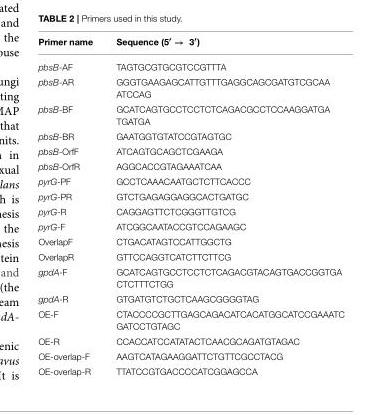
<table><thead><tr><td>Primer name</td><td>Sequence (5′ → 3′)</td></tr></thead><tbody><tr><td>pbsB-AF</td><td>TAGTGCGTGCGTCCGTTTA</td></tr><tr><td>pbsB-AR</td><td>GGGTGAAGAGCATTGTTTGAGGCAGCGATGTCGCAA ATCCAG</td></tr><tr><td>pbsB-BF</td><td>GCATCAGTGCCTCCTCTCAGACGCCTCCAAGGATGA TGATGA</td></tr><tr><td>pbsB-BR</td><td>GAATGGTGTATCCGTAGTGC</td></tr><tr><td>pbsB-OrfF</td><td>ATCAGTGCAGCTCGAAGA</td></tr><tr><td>pbsB-OrfR</td><td>AGGCACCGTAGAAATCAA</td></tr><tr><td>pyrG-PF</td><td>GCCTCAAACAATGCTCTTCACCC</td></tr><tr><td>pyrG-PR</td><td>GTCTGAGAGGAGGCACTGATGC</td></tr><tr><td>pyrG-R</td><td>CAGGAGTTCTCGGGTTGTCG</td></tr><tr><td>pyrG-F</td><td>ATCGGCAATACCGTCCAGAAGC</td></tr><tr><td>OverlapF</td><td>CTGACATAGTCCATTGGCTG</td></tr><tr><td>OverlapR</td><td>GTTCCAGGTCATCTTCTTCG</td></tr><tr><td>gpdA-F</td><td>GCATCAGTGCCTCCTCTCAGACGTACAGTGACCGGTGA CTCTTTCTGG</td></tr><tr><td>gpdA-R</td><td>GTGATGTCTGCTCAAGCGGGGTAG</td></tr><tr><td>OE-F</td><td>CTACCCCGCTTGAGCAGACATCACATGGCATCCGAAATC GATCCTGTAGC</td></tr><tr><td>OE-R</td><td>CCACCATCCATATACTCAACGCAGATGTAGAC</td></tr><tr><td>OE-overlap-F</td><td>AAGTCATAGAAGGATTCTGTTCGCCTACG</td></tr><tr><td>OE-overlap-R</td><td>TTATCCGTGACCCCATCGGAGCCA</td></tr></tbody></table>